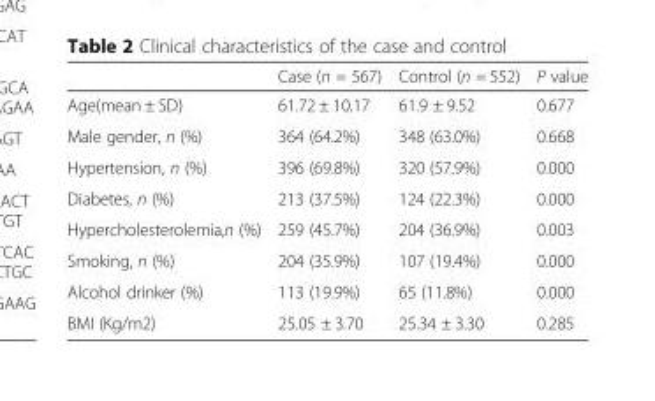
<table><thead><tr><td></td><td>Case (n = 567)</td><td>Control (n = 552)</td><td>P value</td></tr></thead><tbody><tr><td>Age(mean ± SD)</td><td>61.72 ± 10.17</td><td>61.9 ± 9.52</td><td>0.677</td></tr><tr><td>Male gender, n (%)</td><td>364 (64.2%)</td><td>348 (63.0%)</td><td>0.668</td></tr><tr><td>Hypertension, n (%)</td><td>396 (69.8%)</td><td>320 (57.9%)</td><td>0.000</td></tr><tr><td>Diabetes, n (%)</td><td>213 (37.5%)</td><td>124 (22.3%)</td><td>0.000</td></tr><tr><td>Hypercholesterolemia,n (%)</td><td>259 (45.7%)</td><td>204 (36.9%)</td><td>0.003</td></tr><tr><td>Smoking, n (%)</td><td>204 (35.9%)</td><td>107 (19.4%)</td><td>0.000</td></tr><tr><td>Alcohol drinker (%)</td><td>113 (19.9%)</td><td>65 (11.8%)</td><td>0.000</td></tr><tr><td>BMI (Kg/m2)</td><td>25.05 ± 3.70</td><td>25.34 ± 3.30</td><td>0.285</td></tr></tbody></table>